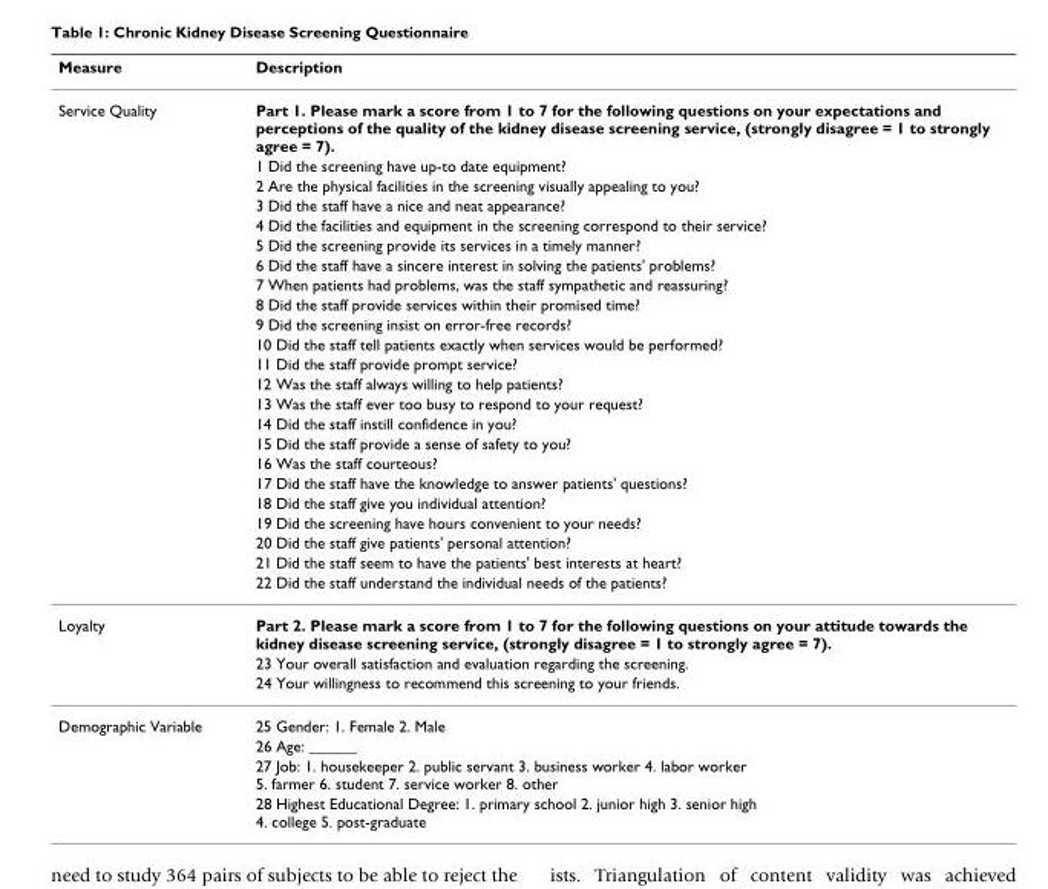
<table><thead><tr><td>Measure</td><td>Description</td></tr></thead><tbody><tr><td rowspan="23">Service Quality</td><td>Part 1. Please mark a score from 1 to 7 for the following questions on your expectations and perceptions of the quality of the kidney disease screening service, (strongly disagree = 1 to strongly agree = 7).</td></tr><tr><td>1 Did the screening have up-to date equipment?</td></tr><tr><td>2 Are the physical facilities in the screening visually appealing to you?</td></tr><tr><td>3 Did the staff have a nice and neat appearance?</td></tr><tr><td>4 Did the facilities and equipment in the screening correspond to their service?</td></tr><tr><td>5 Did the screening provide its services in a timely manner?</td></tr><tr><td>6 Did the staff have a sincere interest in solving the patients&#x27; problems?</td></tr><tr><td>7 When patients had problems, was the staff sympathetic and reassuring?</td></tr><tr><td>8 Did the staff provide services within their promised time?</td></tr><tr><td>9 Did the screening insist on error-free records?</td></tr><tr><td>10 Did the staff tell patients exactly when services would be performed?</td></tr><tr><td>11 Did the staff provide prompt service?</td></tr><tr><td>12 Was the staff always willing to help patients?</td></tr><tr><td>13 Was the staff ever too busy to respond to your request?</td></tr><tr><td>14 Did the staff instill confidence in you?</td></tr><tr><td>15 Did the staff provide a sense of safety to you?</td></tr><tr><td>16 Was the staff courteous?</td></tr><tr><td>17 Did the staff have the knowledge to answer patients&#x27; questions?</td></tr><tr><td>18 Did the staff give you individual attention?</td></tr><tr><td>19 Did the screening have hours convenient to your needs?</td></tr><tr><td>20 Did the staff give patients&#x27; personal attention?</td></tr><tr><td>21 Did the staff seem to have the patients&#x27; best interests at heart?</td></tr><tr><td>22 Did the staff understand the individual needs of the patients?</td></tr><tr><td rowspan="3">Loyalty</td><td>Part 2. Please mark a score from 1 to 7 for the following questions on your attitude towards the kidney disease screening service, (strongly disagree = 1 to strongly agree = 7).</td></tr><tr><td>23 Your overall satisfaction and evaluation regarding the screening.</td></tr><tr><td>24 Your willingness to recommend this screening to your friends.</td></tr><tr><td rowspan="4">Demographic Variable</td><td>25 Gender: 1. Female 2. Male</td></tr><tr><td>26 Age: ______</td></tr><tr><td>27 Job: 1. housekeeper 2. public servant 3. business worker 4. labor worker 5. farmer 6. student 7. service worker 8. other</td></tr><tr><td>28 Highest Educational Degree: 1. primary school 2. junior high 3. senior high 4. college 5. post-graduate</td></tr></tbody></table>